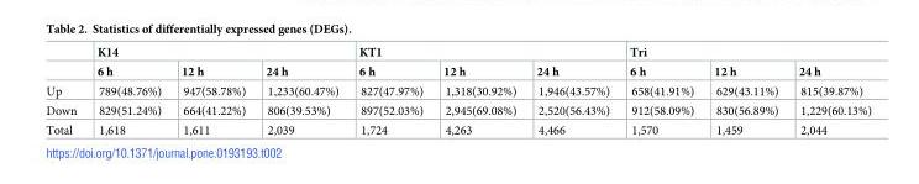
<table><thead><tr><td rowspan="2"></td><td colspan="3">K14</td><td colspan="3">KT1</td><td colspan="3">Tri</td></tr><tr><td>6 h</td><td>12 h</td><td>24 h</td><td>6 h</td><td>12 h</td><td>24 h</td><td>6 h</td><td>12 h</td><td>24 h</td></tr></thead><tbody><tr><td>Up</td><td>789(48.76%)</td><td>947(58.78%)</td><td>1,233(60.47%)</td><td>827(47.97%)</td><td>1,318(30.92%)</td><td>1,946(43.57%)</td><td>658(41.91%)</td><td>629(43.11%)</td><td>815(39.87%)</td></tr><tr><td>Down</td><td>829(51.24%)</td><td>664(41.22%)</td><td>806(39.53%)</td><td>897(52.03%)</td><td>2,945(69.08%)</td><td>2,520(56.43%)</td><td>912(58.09%)</td><td>830(56.89%)</td><td>1,229(60.13%)</td></tr><tr><td>Total</td><td>1,618</td><td>1,611</td><td>2,039</td><td>1,724</td><td>4,263</td><td>4,466</td><td>1,570</td><td>1,459</td><td>2,044</td></tr></tbody></table>